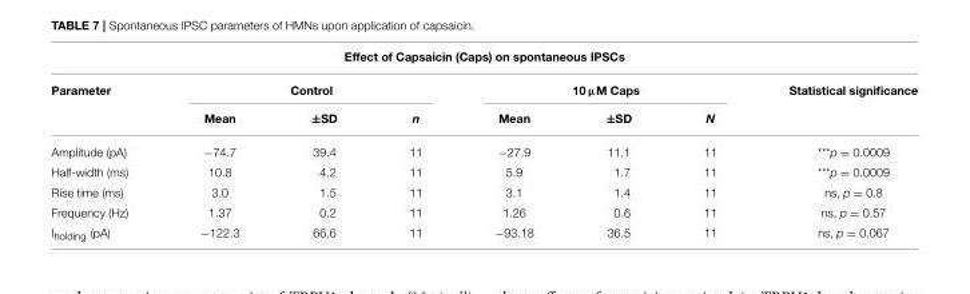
<table><thead><tr><td colspan="8">Effect of Capsaicin (Caps) on spontaneous IPSCs</td></tr><tr><td rowspan="2">Parameter</td><td colspan="3">Control</td><td colspan="3">10 µM Caps</td><td rowspan="2">Statistical significance</td></tr><tr><td>Mean</td><td>±SD</td><td>n</td><td>Mean</td><td>±SD</td><td>N</td></tr></thead><tbody><tr><td>Amplitude (pA)</td><td>−74.7</td><td>39.4</td><td>11</td><td>−27.9</td><td>11.1</td><td>11</td><td>***p = 0.0009</td></tr><tr><td>Half-width (ms)</td><td>10.8</td><td>4.2</td><td>11</td><td>5.9</td><td>1.7</td><td>11</td><td>***p = 0.0009</td></tr><tr><td>Rise time (ms)</td><td>3.0</td><td>1.5</td><td>11</td><td>3.1</td><td>1.4</td><td>11</td><td>ns, p = 0.8</td></tr><tr><td>Frequency (Hz)</td><td>1.37</td><td>0.2</td><td>11</td><td>1.26</td><td>0.6</td><td>11</td><td>ns, p = 0.57</td></tr><tr><td>I<sub>holding</sub> (pA)</td><td>−122.3</td><td>66.6</td><td>11</td><td>−93.18</td><td>36.5</td><td>11</td><td>ns, p = 0.067</td></tr></tbody></table>